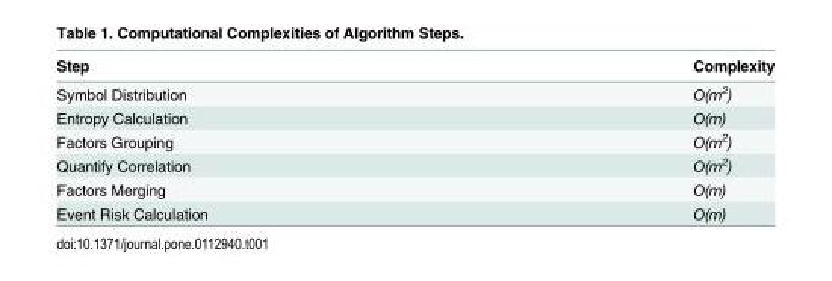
<table><thead><tr><td>Step</td><td>Complexity</td></tr></thead><tbody><tr><td>Symbol Distribution</td><td>O(m<sup>2</sup>)</td></tr><tr><td>Entropy Calculation</td><td>O(m)</td></tr><tr><td>Factors Grouping</td><td>O(m<sup>2</sup>)</td></tr><tr><td>Quantify Correlation</td><td>O(m<sup>2</sup>)</td></tr><tr><td>Factors Merging</td><td>O(m)</td></tr><tr><td>Event Risk Calculation</td><td>O(m)</td></tr></tbody></table>